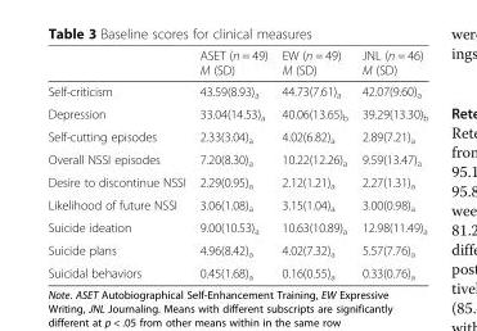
<table><thead><tr><td></td><td>ASET (n = 49) M (SD)</td><td>EW (n = 49) M (SD)</td><td>JNL (n = 46) M (SD)</td></tr></thead><tbody><tr><td>Self-criticism</td><td>43.59(8.93)<sub>a</sub></td><td>44.73(7.61)<sub>a</sub></td><td>42.07(9.60)<sub>a</sub></td></tr><tr><td>Depression</td><td>33.04(14.53)<sub>a</sub></td><td>40.06(13.65)<sub>b</sub></td><td>39.29(13.30)<sub>b</sub></td></tr><tr><td>Self-cutting episodes</td><td>2.33(3.04)<sub>a</sub></td><td>4.02(6.82)<sub>a</sub></td><td>2.89(7.21)<sub>a</sub></td></tr><tr><td>Overall NSSI episodes</td><td>7.20(8.30)<sub>a</sub></td><td>10.22(12.26)<sub>a</sub></td><td>9.59(13.47)<sub>a</sub></td></tr><tr><td>Desire to discontinue NSSI</td><td>2.29(0.95)<sub>a</sub></td><td>2.12(1.21)<sub>a</sub></td><td>2.27(1.31)<sub>a</sub></td></tr><tr><td>Likelihood of future NSSI</td><td>3.06(1.08)<sub>a</sub></td><td>3.15(1.04)<sub>a</sub></td><td>3.00(0.98)<sub>a</sub></td></tr><tr><td>Suicide ideation</td><td>9.00(10.53)<sub>a</sub></td><td>10.63(10.89)<sub>a</sub></td><td>12.98(11.49)<sub>a</sub></td></tr><tr><td>Suicide plans</td><td>4.96(8.42)<sub>a</sub></td><td>4.02(7.32)<sub>a</sub></td><td>5.57(7.76)<sub>a</sub></td></tr><tr><td>Suicidal behaviors</td><td>0.45(1.68)<sub>a</sub></td><td>0.16(0.55)<sub>a</sub></td><td>0.33(0.76)<sub>a</sub></td></tr></tbody></table>